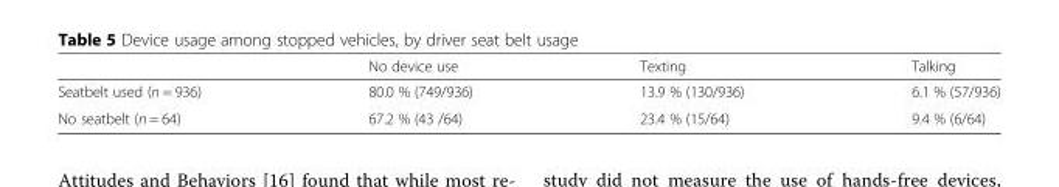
<table><thead><tr><td></td><td>No device use</td><td>Texting</td><td>Talking</td></tr></thead><tbody><tr><td>Seatbelt used (n = 936)</td><td>80.0 % (749/936)</td><td>13.9 % (130/936)</td><td>6.1 % (57/936)</td></tr><tr><td>No seatbelt (n = 64)</td><td>67.2 % (43 /64)</td><td>23.4 % (15/64)</td><td>9.4 % (6/64)</td></tr></tbody></table>